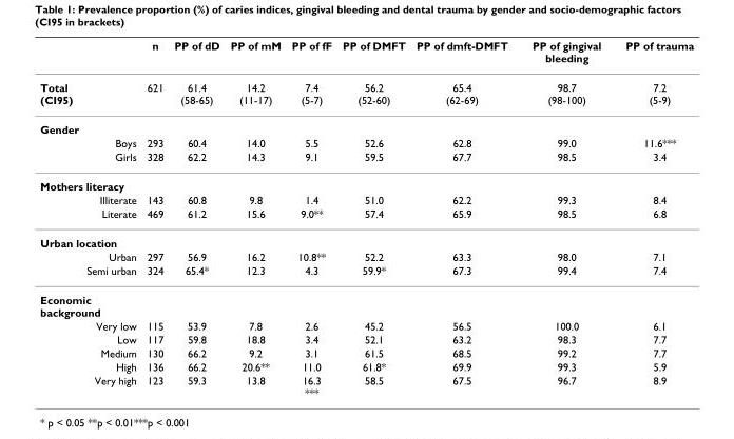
<table><thead><tr><td></td><td>n</td><td>PP of dD</td><td>PP of mM</td><td>PP of fF</td><td>PP of DMFT</td><td>PP of dmft-DMFT</td><td>PP of gingival bleeding</td><td>PP of trauma</td></tr></thead><tbody><tr><td>Total (CI95)</td><td>621</td><td>61.4 (58-65)</td><td>14.2 (11-17)</td><td>7.4 (5-7)</td><td>56.2 (52-60)</td><td>65.4 (62-69)</td><td>98.7 (98-100)</td><td>7.2 (5-9)</td></tr><tr><td colspan="9">Gender</td></tr><tr><td>Boys</td><td>293</td><td>60.4</td><td>14.0</td><td>5.5</td><td>52.6</td><td>62.8</td><td>99.0</td><td>11.6***</td></tr><tr><td>Girls</td><td>328</td><td>62.2</td><td>14.3</td><td>9.1</td><td>59.5</td><td>67.7</td><td>98.5</td><td>3.4</td></tr><tr><td colspan="9">Mothers literacy</td></tr><tr><td>Illiterate</td><td>143</td><td>60.8</td><td>9.8</td><td>1.4</td><td>51.0</td><td>62.2</td><td>99.3</td><td>8.4</td></tr><tr><td>Literate</td><td>469</td><td>61.2</td><td>15.6</td><td>9.0**</td><td>57.4</td><td>65.9</td><td>98.5</td><td>6.8</td></tr><tr><td colspan="9">Urban location</td></tr><tr><td>Urban</td><td>297</td><td>56.9</td><td>16.2</td><td>10.8**</td><td>52.2</td><td>63.3</td><td>98.0</td><td>7.1</td></tr><tr><td>Semi urban</td><td>324</td><td>65.4*</td><td>12.3</td><td>4.3</td><td>59.9*</td><td>67.3</td><td>99.4</td><td>7.4</td></tr><tr><td colspan="9">Economic background</td></tr><tr><td>Very low</td><td>115</td><td>53.9</td><td>7.8</td><td>2.6</td><td>45.2</td><td>56.5</td><td>100.0</td><td>6.1</td></tr><tr><td>Low</td><td>117</td><td>59.8</td><td>18.8</td><td>3.4</td><td>52.1</td><td>63.2</td><td>98.3</td><td>7.7</td></tr><tr><td>Medium</td><td>130</td><td>66.2</td><td>9.2</td><td>3.1</td><td>61.5</td><td>68.5</td><td>99.2</td><td>7.7</td></tr><tr><td>High</td><td>136</td><td>66.2</td><td>20.6**</td><td>11.0</td><td>61.8*</td><td>69.9</td><td>99.3</td><td>5.9</td></tr><tr><td>Very high</td><td>123</td><td>59.3</td><td>13.8</td><td>16.3 ***</td><td>58.5</td><td>67.5</td><td>96.7</td><td>8.9</td></tr></tbody></table>